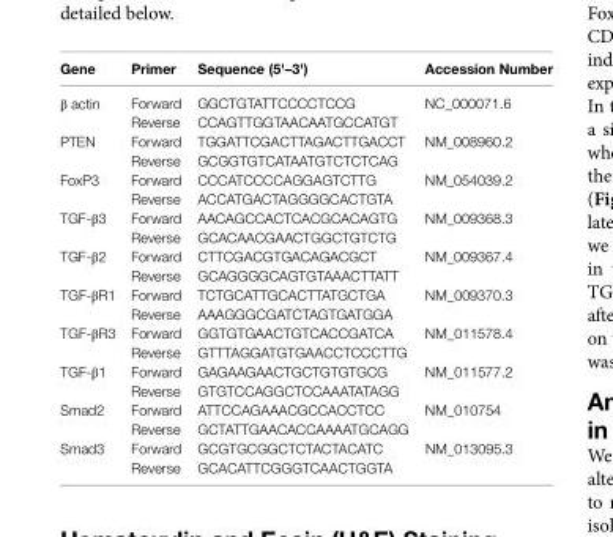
<table><thead><tr><td>gene</td><td>Primer</td><td>sequence (5&#x27;–3&#x27;)</td><td>accession number</td></tr></thead><tbody><tr><td>β actin</td><td>Forward Reverse</td><td>GGCTGTATTCCCCTCCG CCAGTTGGTAACAATGCCATGT</td><td>NC_000071.6</td></tr><tr><td>PTEN</td><td>Forward Reverse</td><td>TGGATTCGACTTAGACTTGACCT GCGGTGTCATAATGTCTCTCAG</td><td>NM_008960.2</td></tr><tr><td>FoxP3</td><td>Forward Reverse</td><td>CCCATCCCCAGGAGTCTTG ACCATGACTAGGGGCACTGTA</td><td>NM_054039.2</td></tr><tr><td>TGF-β3</td><td>Forward Reverse</td><td>AACAGCCACTCACGCACAGTG GCACAACGAACTGGCTGTCTG</td><td>NM_009368.3</td></tr><tr><td>TGF-β2</td><td>Forward Reverse</td><td>CTTCGACGTGACAGACGCT GCAGGGGCAGTGTAAACTTATT</td><td>NM_009367.4</td></tr><tr><td>TGF-βR1</td><td>Forward Reverse</td><td>TCTGCATTGCACTTATGCTGA AAAGGGCGATCTAGTGATGGA</td><td>NM_009370.3</td></tr><tr><td>TGF-βR3</td><td>Forward Reverse</td><td>GGTGTGAACTGTCACCGATCA GTTTAGGATGTGAACCTCCCTTG</td><td>NM_011578.4</td></tr><tr><td>TGF-β1</td><td>Forward Reverse</td><td>GAGAAGAACTGCTGTGTGCG GTGTCCAGGCTCCAAATATAGG</td><td>NM_011577.2</td></tr><tr><td>Smad2</td><td>Forward Reverse</td><td>ATTCCAGAAACGCCACCTCC GCTATTGAACACCAAAATGCAGG</td><td>NM_010754</td></tr><tr><td>Smad3</td><td>Forward Reverse</td><td>GCGTGCGGCTCTACTACATC GCACATTCGGGTCAACTGGTA</td><td>NM_013095.3</td></tr></tbody></table>